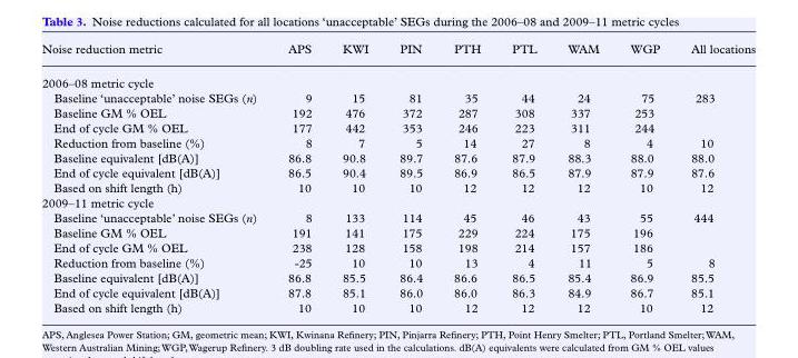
<table><thead><tr><td>Noise reduction metric</td><td>APS</td><td>KWI</td><td>PIN</td><td>PTH</td><td>PTL</td><td>WAM</td><td>WGP</td><td>All locations</td></tr></thead><tbody><tr><td colspan="9">2006–08 metric cycle</td></tr><tr><td>Baseline ‘unacceptable’ noise SEGs (n)</td><td>9</td><td>15</td><td>81</td><td>35</td><td>44</td><td>24</td><td>75</td><td>283</td></tr><tr><td>Baseline GM % OEL</td><td>192</td><td>476</td><td>372</td><td>287</td><td>308</td><td>337</td><td>253</td><td></td></tr><tr><td>End of cycle GM % OEL</td><td>177</td><td>442</td><td>353</td><td>246</td><td>223</td><td>311</td><td>244</td><td></td></tr><tr><td>Reduction from baseline (%)</td><td>8</td><td>7</td><td>5</td><td>14</td><td>27</td><td>8</td><td>4</td><td>10</td></tr><tr><td>Baseline equivalent [dB(A)]</td><td>86.8</td><td>90.8</td><td>89.7</td><td>87.6</td><td>87.9</td><td>88.3</td><td>88.0</td><td>88.0</td></tr><tr><td>End of cycle equivalent [dB(A)]</td><td>86.5</td><td>90.4</td><td>89.5</td><td>86.9</td><td>86.5</td><td>87.9</td><td>87.9</td><td>87.6</td></tr><tr><td>Based on shift length (h)</td><td>10</td><td>10</td><td>10</td><td>12</td><td>12</td><td>12</td><td>10</td><td>12</td></tr><tr><td colspan="9">2009–11 metric cycle</td></tr><tr><td>Baseline ‘unacceptable’ noise SEGs (n)</td><td>8</td><td>133</td><td>114</td><td>45</td><td>46</td><td>43</td><td>55</td><td>444</td></tr><tr><td>Baseline GM % OEL</td><td>191</td><td>141</td><td>175</td><td>229</td><td>224</td><td>175</td><td>196</td><td></td></tr><tr><td>End of cycle GM % OEL</td><td>238</td><td>128</td><td>158</td><td>198</td><td>214</td><td>157</td><td>186</td><td></td></tr><tr><td>Reduction from baseline (%)</td><td>-25</td><td>10</td><td>10</td><td>13</td><td>4</td><td>11</td><td>5</td><td>8</td></tr><tr><td>Baseline equivalent [dB(A)]</td><td>86.8</td><td>85.5</td><td>86.4</td><td>86.6</td><td>86.5</td><td>85.4</td><td>86.9</td><td>85.5</td></tr><tr><td>End of cycle equivalent [dB(A)]</td><td>87.8</td><td>85.1</td><td>86.0</td><td>86.0</td><td>86.3</td><td>84.9</td><td>86.7</td><td>85.1</td></tr><tr><td>Based on shift length (h)</td><td>10</td><td>10</td><td>10</td><td>12</td><td>12</td><td>12</td><td>10</td><td>12</td></tr></tbody></table>